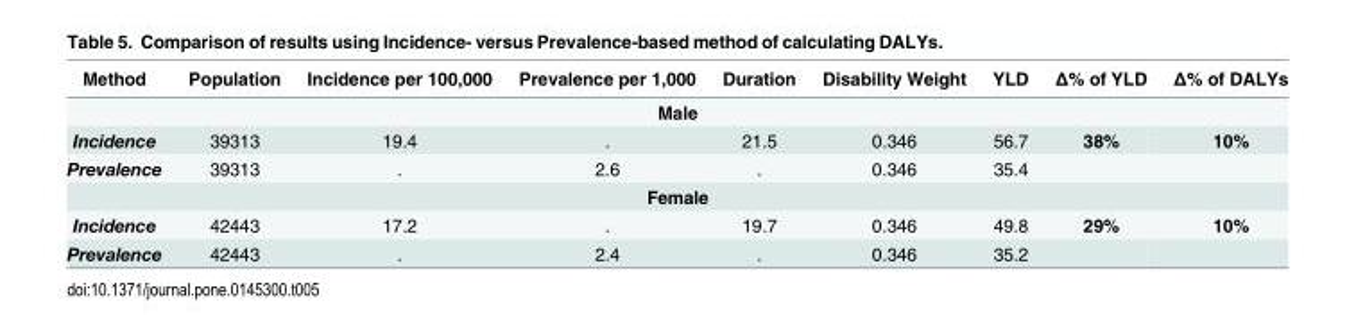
<table><thead><tr><td>Method</td><td>Population</td><td>Incidence per 100,000</td><td>Prevalence per 1,000</td><td>Duration</td><td>Disability Weight</td><td>YLD</td><td>Δ% of YLD</td><td>Δ% of DALYs</td></tr></thead><tbody><tr><td colspan="9">Male</td></tr><tr><td>Incidence</td><td>39313</td><td>19.4</td><td>.</td><td>21.5</td><td>0.346</td><td>56.7</td><td>38%</td><td>10%</td></tr><tr><td>Prevalence</td><td>39313</td><td>.</td><td>2.6</td><td>.</td><td>0.346</td><td>35.4</td><td></td><td></td></tr><tr><td colspan="9">Female</td></tr><tr><td>Incidence</td><td>42443</td><td>17.2</td><td>.</td><td>19.7</td><td>0.346</td><td>49.8</td><td>29%</td><td>10%</td></tr><tr><td>Prevalence</td><td>42443</td><td>.</td><td>2.4</td><td>.</td><td>0.346</td><td>35.2</td><td></td><td></td></tr></tbody></table>